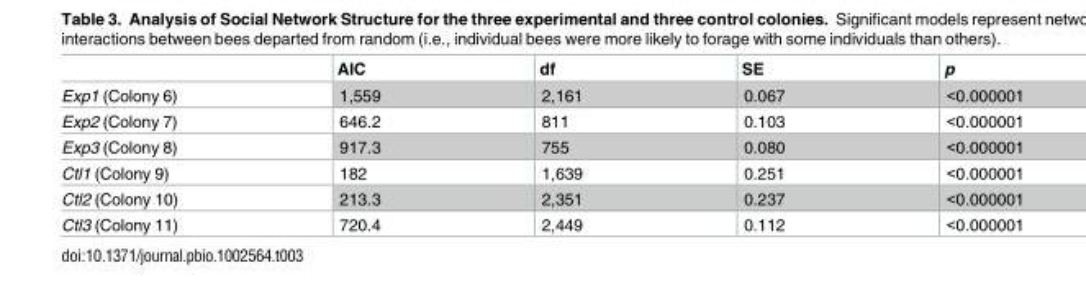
<table><thead><tr><td></td><td>AIC</td><td>df</td><td>SE</td><td>p</td></tr></thead><tbody><tr><td>Exp1 (Colony 6)</td><td>1,559</td><td>2,161</td><td>0.067</td><td>&lt;0.000001</td></tr><tr><td>Exp2 (Colony 7)</td><td>646.2</td><td>811</td><td>0.103</td><td>&lt;0.000001</td></tr><tr><td>Exp3 (Colony 8)</td><td>917.3</td><td>755</td><td>0.080</td><td>&lt;0.000001</td></tr><tr><td>Ctl1 (Colony 9)</td><td>182</td><td>1,639</td><td>0.251</td><td>&lt;0.000001</td></tr><tr><td>Ctl2 (Colony 10)</td><td>213.3</td><td>2,351</td><td>0.237</td><td>&lt;0.000001</td></tr><tr><td>Ctl3 (Colony 11)</td><td>720.4</td><td>2,449</td><td>0.112</td><td>&lt;0.000001</td></tr></tbody></table>